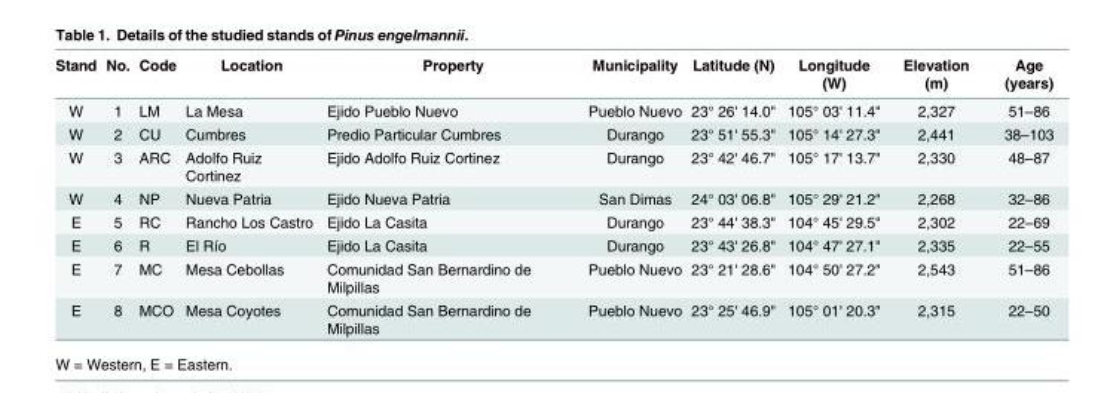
<table><thead><tr><td>Stand</td><td>No.</td><td>Code</td><td>Location</td><td>Property</td><td>Municipality</td><td>Latitude (N)</td><td>Longitude (W)</td><td>Elevation (m)</td><td>Age (years)</td></tr></thead><tbody><tr><td>W</td><td>1</td><td>LM</td><td>La Mesa</td><td>Ejido Pueblo Nuevo</td><td>Pueblo Nuevo</td><td>23° 26&#x27; 14.0&quot;</td><td>105° 03&#x27; 11.4&quot;</td><td>2,327</td><td>51–86</td></tr><tr><td>W</td><td>2</td><td>CU</td><td>Cumbres</td><td>Predio Particular Cumbres</td><td>Durango</td><td>23° 51&#x27; 55.3&quot;</td><td>105° 14&#x27; 27.3&quot;</td><td>2,441</td><td>38–103</td></tr><tr><td>W</td><td>3</td><td>ARC</td><td>Adolfo Ruiz Cortinez</td><td>Ejido Adolfo Ruiz Cortinez</td><td>Durango</td><td>23° 42&#x27; 46.7&quot;</td><td>105° 17&#x27; 13.7&quot;</td><td>2,330</td><td>48–87</td></tr><tr><td>W</td><td>4</td><td>NP</td><td>Nueva Patria</td><td>Ejido Nueva Patria</td><td>San Dimas</td><td>24° 03&#x27; 06.8&quot;</td><td>105° 29&#x27; 21.2&quot;</td><td>2,268</td><td>32–86</td></tr><tr><td>E</td><td>5</td><td>RC</td><td>Rancho Los Castro</td><td>Ejido La Casita</td><td>Durango</td><td>23° 44&#x27; 38.3&quot;</td><td>104° 45&#x27; 29.5&quot;</td><td>2,302</td><td>22–69</td></tr><tr><td>E</td><td>6</td><td>R</td><td>El Río</td><td>Ejido La Casita</td><td>Durango</td><td>23° 43&#x27; 26.8&quot;</td><td>104° 47&#x27; 27.1&quot;</td><td>2,335</td><td>22–55</td></tr><tr><td>E</td><td>7</td><td>MC</td><td>Mesa Cebollas</td><td>Comunidad San Bernardino de Milpillas</td><td>Pueblo Nuevo</td><td>23° 21&#x27; 28.6&quot;</td><td>104° 50&#x27; 27.2&quot;</td><td>2,543</td><td>51–86</td></tr><tr><td>E</td><td>8</td><td>MCO</td><td>Mesa Coyotes</td><td>Comunidad San Bernardino de Milpillas</td><td>Pueblo Nuevo</td><td>23° 25&#x27; 46.9&quot;</td><td>105° 01&#x27; 20.3&quot;</td><td>2,315</td><td>22–50</td></tr></tbody></table>